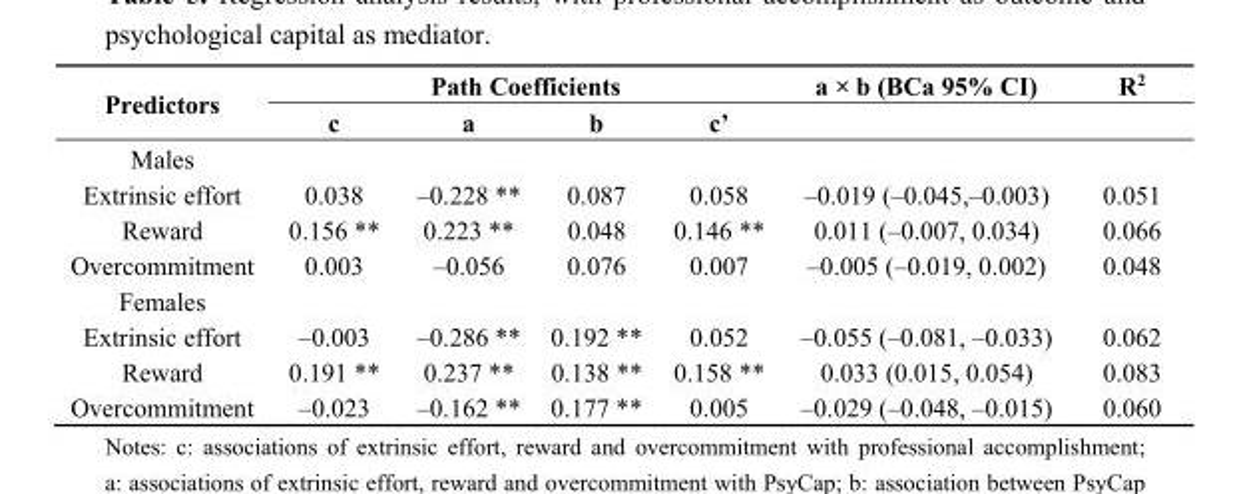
<table><thead><tr><td rowspan="2">Predictors</td><td colspan="4">Path Coefficients</td><td rowspan="2">a × b (BCa 95% CI)</td><td rowspan="2">R<sup>2</sup></td></tr><tr><td>c</td><td>a</td><td>b</td><td>c’</td></tr></thead><tbody><tr><td colspan="7">Males</td></tr><tr><td>Extrinsic effort</td><td>0.038</td><td>‒0.228 **</td><td>0.087</td><td>0.058</td><td>‒0.019 (‒0.045,‒0.003)</td><td>0.051</td></tr><tr><td>Reward</td><td>0.156 **</td><td>0.223 **</td><td>0.048</td><td>0.146 **</td><td>0.011 (‒0.007, 0.034)</td><td>0.066</td></tr><tr><td>Overcommitment</td><td>0.003</td><td>‒0.056</td><td>0.076</td><td>0.007</td><td>‒0.005 (‒0.019, 0.002)</td><td>0.048</td></tr><tr><td colspan="7">Females</td></tr><tr><td>Extrinsic effort</td><td>‒0.003</td><td>‒0.286 **</td><td>0.192 **</td><td>0.052</td><td>‒0.055 (‒0.081, ‒0.033)</td><td>0.062</td></tr><tr><td>Reward</td><td>0.191 **</td><td>0.237 **</td><td>0.138 **</td><td>0.158 **</td><td>0.033 (0.015, 0.054)</td><td>0.083</td></tr><tr><td>Overcommitment</td><td>‒0.023</td><td>‒0.162 **</td><td>0.177 **</td><td>0.005</td><td>‒0.029 (‒0.048, ‒0.015)</td><td>0.060</td></tr></tbody></table>